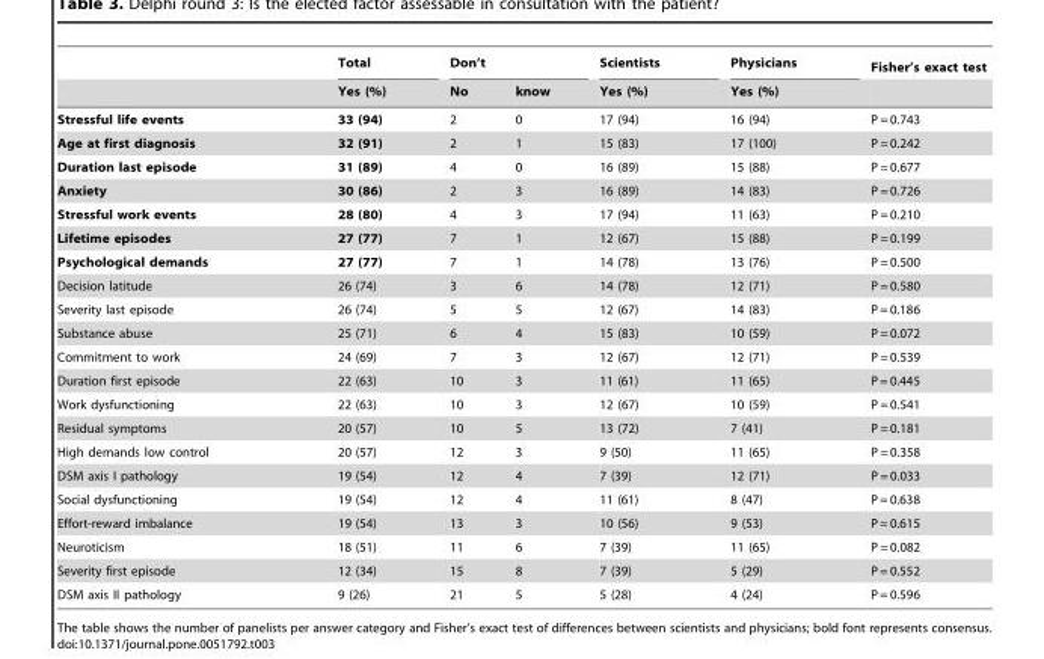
<table><thead><tr><td rowspan="2"></td><td rowspan="2">Total Yes (%)</td><td colspan="2">Don’t</td><td rowspan="2">Scientists Yes (%)</td><td rowspan="2">Physicians Yes (%)</td><td rowspan="2">Fisher’s exact test</td></tr><tr><td>No</td><td>know</td></tr></thead><tbody><tr><td>Stressful life events</td><td>33 (94)</td><td>2</td><td>0</td><td>17 (94)</td><td>16 (94)</td><td>P = 0.743</td></tr><tr><td>Age at first diagnosis</td><td>32 (91)</td><td>2</td><td>1</td><td>15 (83)</td><td>17 (100)</td><td>P = 0.242</td></tr><tr><td>Duration last episode</td><td>31 (89)</td><td>4</td><td>0</td><td>16 (89)</td><td>15 (88)</td><td>P = 0.677</td></tr><tr><td>Anxiety</td><td>30 (86)</td><td>2</td><td>3</td><td>16 (89)</td><td>14 (83)</td><td>P = 0.726</td></tr><tr><td>Stressful work events</td><td>28 (80)</td><td>4</td><td>3</td><td>17 (94)</td><td>11 (63)</td><td>P = 0.210</td></tr><tr><td>Lifetime episodes</td><td>27 (77)</td><td>7</td><td>1</td><td>12 (67)</td><td>15 (88)</td><td>P = 0.199</td></tr><tr><td>Psychological demands</td><td>27 (77)</td><td>7</td><td>1</td><td>14 (78)</td><td>13 (76)</td><td>P = 0.500</td></tr><tr><td>Decision latitude</td><td>26 (74)</td><td>3</td><td>6</td><td>14 (78)</td><td>12 (71)</td><td>P = 0.580</td></tr><tr><td>Severity last episode</td><td>26 (74)</td><td>5</td><td>5</td><td>12 (67)</td><td>14 (83)</td><td>P = 0.186</td></tr><tr><td>Substance abuse</td><td>25 (71)</td><td>6</td><td>4</td><td>15 (83)</td><td>10 (59)</td><td>P = 0.072</td></tr><tr><td>Commitment to work</td><td>24 (69)</td><td>7</td><td>3</td><td>12 (67)</td><td>12 (71)</td><td>P = 0.539</td></tr><tr><td>Duration first episode</td><td>22 (63)</td><td>10</td><td>3</td><td>11 (61)</td><td>11 (65)</td><td>P = 0.445</td></tr><tr><td>Work dysfunctioning</td><td>22 (63)</td><td>10</td><td>3</td><td>12 (67)</td><td>10 (59)</td><td>P = 0.541</td></tr><tr><td>Residual symptoms</td><td>20 (57)</td><td>10</td><td>5</td><td>13 (72)</td><td>7 (41)</td><td>P = 0.181</td></tr><tr><td>High demands low control</td><td>20 (57)</td><td>12</td><td>3</td><td>9 (50)</td><td>11 (65)</td><td>P = 0.358</td></tr><tr><td>DSM axis I pathology</td><td>19 (54)</td><td>12</td><td>4</td><td>7 (39)</td><td>12 (71)</td><td>P = 0.033</td></tr><tr><td>Social dysfunctioning</td><td>19 (54)</td><td>12</td><td>4</td><td>11 (61)</td><td>8 (47)</td><td>P = 0.638</td></tr><tr><td>Effort-reward imbalance</td><td>19 (54)</td><td>13</td><td>3</td><td>10 (56)</td><td>9 (53)</td><td>P = 0.615</td></tr><tr><td>Neuroticism</td><td>18 (51)</td><td>11</td><td>6</td><td>7 (39)</td><td>11 (65)</td><td>P = 0.082</td></tr><tr><td>Severity first episode</td><td>12 (34)</td><td>15</td><td>8</td><td>7 (39)</td><td>5 (29)</td><td>P = 0.552</td></tr><tr><td>DSM axis II pathology</td><td>9 (26)</td><td>21</td><td>5</td><td>5 (28)</td><td>4 (24)</td><td>P = 0.596</td></tr></tbody></table>